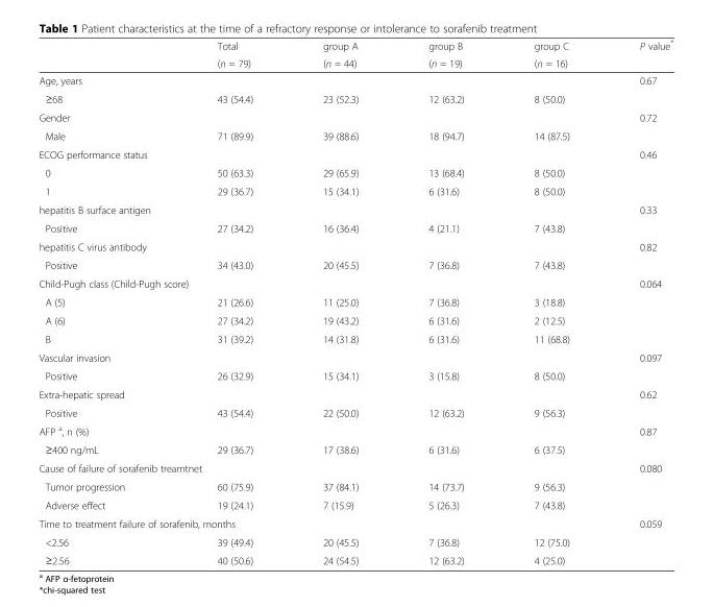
<table><thead><tr><td rowspan="2"></td><td rowspan="2">Total (n = 79)</td><td rowspan="2">group A (n = 44)</td><td rowspan="2">group B (n = 19)</td><td rowspan="2">group C (n = 16)</td><td rowspan="2">P value*</td></tr><tr></tr></thead><tbody><tr><td>Age, years</td><td></td><td></td><td></td><td></td><td>0.67</td></tr><tr><td>≥68</td><td>43 (54.4)</td><td>23 (52.3)</td><td>12 (63.2)</td><td>8 (50.0)</td><td></td></tr><tr><td>Gender</td><td></td><td></td><td></td><td></td><td>0.72</td></tr><tr><td>Male</td><td>71 (89.9)</td><td>39 (88.6)</td><td>18 (94.7)</td><td>14 (87.5)</td><td></td></tr><tr><td>ECOG performance status</td><td></td><td></td><td></td><td></td><td>0.46</td></tr><tr><td>0</td><td>50 (63.3)</td><td>29 (65.9)</td><td>13 (68.4)</td><td>8 (50.0)</td><td></td></tr><tr><td>1</td><td>29 (36.7)</td><td>15 (34.1)</td><td>6 (31.6)</td><td>8 (50.0)</td><td></td></tr><tr><td colspan="5">hepatitis B surface antigen</td><td>0.33</td></tr><tr><td>Positive</td><td>27 (34.2)</td><td>16 (36.4)</td><td>4 (21.1)</td><td>7 (43.8)</td><td></td></tr><tr><td colspan="5">hepatitis C virus antibody</td><td>0.82</td></tr><tr><td>Positive</td><td>34 (43.0)</td><td>20 (45.5)</td><td>7 (36.8)</td><td>7 (43.8)</td><td></td></tr><tr><td colspan="5">Child-Pugh class (Child-Pugh score)</td><td>0.064</td></tr><tr><td>A (5)</td><td>21 (26.6)</td><td>11 (25.0)</td><td>7 (36.8)</td><td>3 (18.8)</td><td></td></tr><tr><td>A (6)</td><td>27 (34.2)</td><td>19 (43.2)</td><td>6 (31.6)</td><td>2 (12.5)</td><td></td></tr><tr><td>B</td><td>31 (39.2)</td><td>14 (31.8)</td><td>6 (31.6)</td><td>11 (68.8)</td><td></td></tr><tr><td>Vascular invasion</td><td></td><td></td><td></td><td></td><td>0.097</td></tr><tr><td>Positive</td><td>26 (32.9)</td><td>15 (34.1)</td><td>3 (15.8)</td><td>8 (50.0)</td><td></td></tr><tr><td>Extra-hepatic spread</td><td></td><td></td><td></td><td></td><td>0.62</td></tr><tr><td>Positive</td><td>43 (54.4)</td><td>22 (50.0)</td><td>12 (63.2)</td><td>9 (56.3)</td><td></td></tr><tr><td>AFP <sup>a</sup>, n (%)</td><td></td><td></td><td></td><td></td><td>0.87</td></tr><tr><td>≥400 ng/mL</td><td>29 (36.7)</td><td>17 (38.6)</td><td>6 (31.6)</td><td>6 (37.5)</td><td></td></tr><tr><td colspan="5">Cause of failure of sorafenib treamtnet</td><td>0.080</td></tr><tr><td>Tumor progression</td><td>60 (75.9)</td><td>37 (84.1)</td><td>14 (73.7)</td><td>9 (56.3)</td><td></td></tr><tr><td>Adverse effect</td><td>19 (24.1)</td><td>7 (15.9)</td><td>5 (26.3)</td><td>7 (43.8)</td><td></td></tr><tr><td colspan="5">Time to treatment failure of sorafenib, months</td><td>0.059</td></tr><tr><td>&lt;2.56</td><td>39 (49.4)</td><td>20 (45.5)</td><td>7 (36.8)</td><td>12 (75.0)</td><td></td></tr><tr><td>≥2.56</td><td>40 (50.6)</td><td>24 (54.5)</td><td>12 (63.2)</td><td>4 (25.0)</td><td></td></tr></tbody></table>